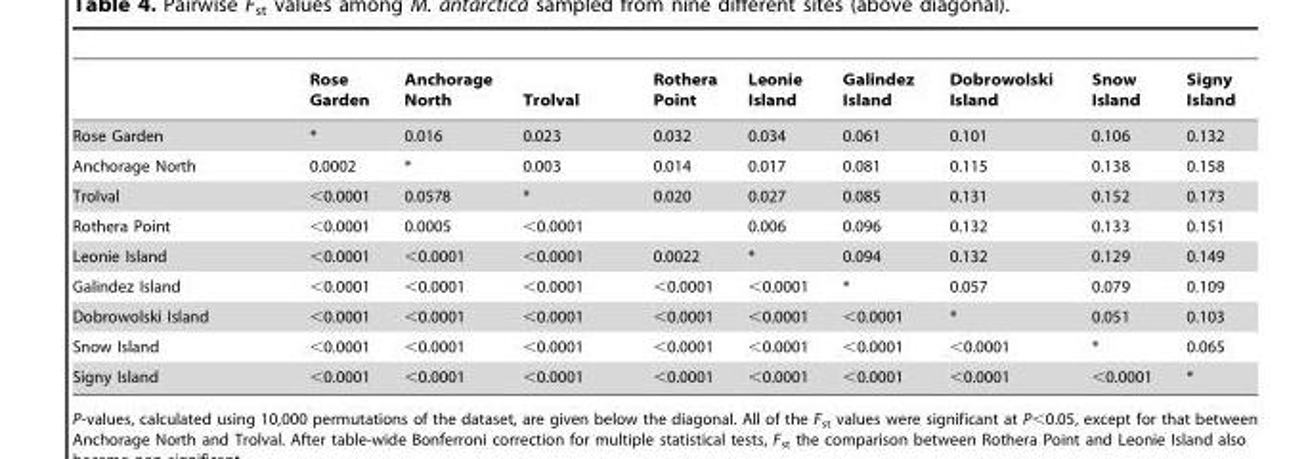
<table><thead><tr><td></td><td>Rose Garden</td><td>Anchorage North</td><td>Trolval</td><td>Rothera Point</td><td>Leonie Island</td><td>Galindez Island</td><td>Dobrowolski Island</td><td>Snow Island</td><td>Signy Island</td></tr></thead><tbody><tr><td>Rose Garden</td><td>*</td><td>0.016</td><td>0.023</td><td>0.032</td><td>0.034</td><td>0.061</td><td>0.101</td><td>0.106</td><td>0.132</td></tr><tr><td>Anchorage North</td><td>0.0002</td><td>*</td><td>0.003</td><td>0.014</td><td>0.017</td><td>0.081</td><td>0.115</td><td>0.138</td><td>0.158</td></tr><tr><td>Trolval</td><td>&lt;0.0001</td><td>0.0578</td><td>*</td><td>0.020</td><td>0.027</td><td>0.085</td><td>0.131</td><td>0.152</td><td>0.173</td></tr><tr><td>Rothera Point</td><td>&lt;0.0001</td><td>0.0005</td><td>&lt;0.0001</td><td></td><td>0.006</td><td>0.096</td><td>0.132</td><td>0.133</td><td>0.151</td></tr><tr><td>Leonie Island</td><td>&lt;0.0001</td><td>&lt;0.0001</td><td>&lt;0.0001</td><td>0.0022</td><td>*</td><td>0.094</td><td>0.132</td><td>0.129</td><td>0.149</td></tr><tr><td>Galindez Island</td><td>&lt;0.0001</td><td>&lt;0.0001</td><td>&lt;0.0001</td><td>&lt;0.0001</td><td>&lt;0.0001</td><td>*</td><td>0.057</td><td>0.079</td><td>0.109</td></tr><tr><td>Dobrowolski Island</td><td>&lt;0.0001</td><td>&lt;0.0001</td><td>&lt;0.0001</td><td>&lt;0.0001</td><td>&lt;0.0001</td><td>&lt;0.0001</td><td>*</td><td>0.051</td><td>0.103</td></tr><tr><td>Snow Island</td><td>&lt;0.0001</td><td>&lt;0.0001</td><td>&lt;0.0001</td><td>&lt;0.0001</td><td>&lt;0.0001</td><td>&lt;0.0001</td><td>&lt;0.0001</td><td>*</td><td>0.065</td></tr><tr><td>Signy Island</td><td>&lt;0.0001</td><td>&lt;0.0001</td><td>&lt;0.0001</td><td>&lt;0.0001</td><td>&lt;0.0001</td><td>&lt;0.0001</td><td>&lt;0.0001</td><td>&lt;0.0001</td><td>*</td></tr></tbody></table>